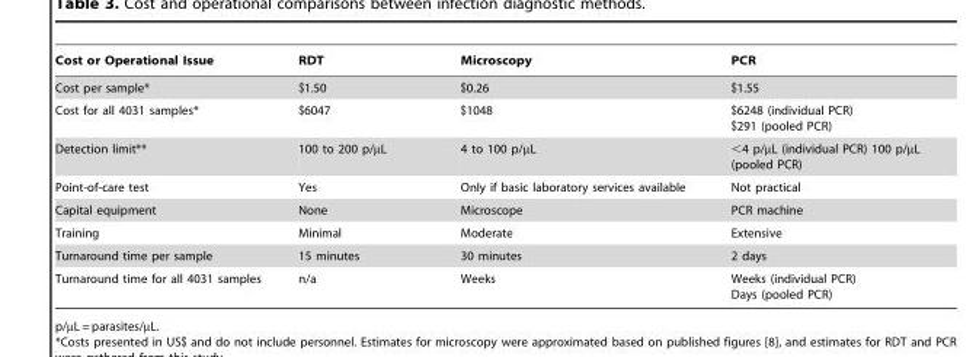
<table><thead><tr><td>Cost or Operational Issue</td><td>RDT</td><td>Microscopy</td><td>PCR</td></tr></thead><tbody><tr><td>Cost per sample*</td><td>$1.50</td><td>$0.26</td><td>$1.55</td></tr><tr><td>Cost for all 4031 samples*</td><td>$6047</td><td>$1048</td><td>$6248 (individual PCR) $291 (pooled PCR)</td></tr><tr><td>Detection limit**</td><td>100 to 200 p/µL</td><td>4 to 100 p/µL</td><td>&lt;4 p/µL (individual PCR) 100 p/µL (pooled PCR)</td></tr><tr><td>Point-of-care test</td><td>Yes</td><td>Only if basic laboratory services available</td><td>Not practical</td></tr><tr><td>Capital equipment</td><td>None</td><td>Microscope</td><td>PCR machine</td></tr><tr><td>Training</td><td>Minimal</td><td>Moderate</td><td>Extensive</td></tr><tr><td>Turnaround time per sample</td><td>15 minutes</td><td>30 minutes</td><td>2 days</td></tr><tr><td>Turnaround time for all 4031 samples</td><td>n/a</td><td>Weeks</td><td>Weeks (individual PCR) Days (pooled PCR)</td></tr></tbody></table>